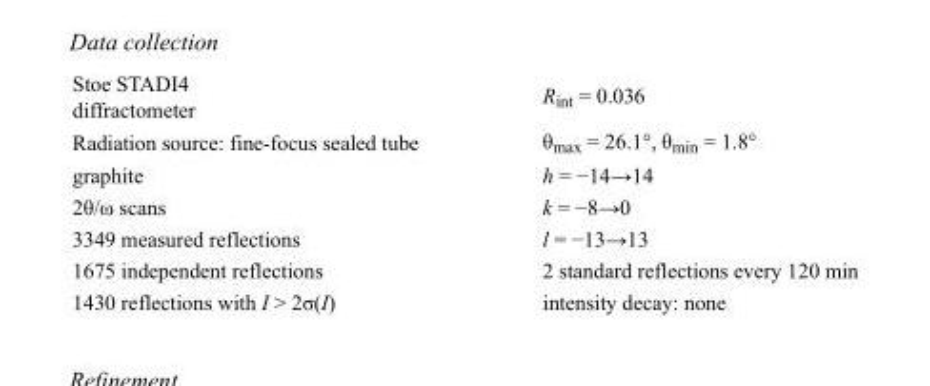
<table><tbody><tr><td>Stoe STADI4 diffractometer</td><td>R<sub>int</sub> = 0.036</td></tr><tr><td>Radiation source: fine-focus sealed tube</td><td>θ<sub>max</sub> = 26.1°, θ<sub>min</sub> = 1.8°</td></tr><tr><td>graphite</td><td>h = −14→14</td></tr><tr><td>2θ/ω scans</td><td>k = −8→0</td></tr><tr><td>3349 measured reflections</td><td>l = −13→13</td></tr><tr><td>1675 independent reflections</td><td>2 standard reflections every 120 min</td></tr><tr><td>1430 reflections with I &gt; 2σ(I)</td><td>intensity decay: none</td></tr></tbody></table>